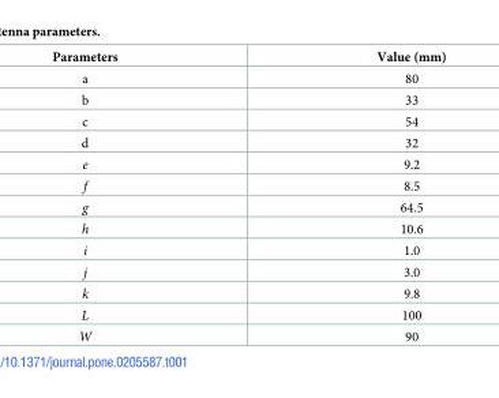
<table><thead><tr><td>Parameters</td><td>Value (mm)</td></tr></thead><tbody><tr><td>a</td><td>80</td></tr><tr><td>b</td><td>33</td></tr><tr><td>c</td><td>54</td></tr><tr><td>d</td><td>32</td></tr><tr><td>e</td><td>9.2</td></tr><tr><td>f</td><td>8.5</td></tr><tr><td>g</td><td>64.5</td></tr><tr><td>h</td><td>10.6</td></tr><tr><td>i</td><td>1.0</td></tr><tr><td>j</td><td>3.0</td></tr><tr><td>k</td><td>9.8</td></tr><tr><td>L</td><td>100</td></tr><tr><td>W</td><td>90</td></tr></tbody></table>